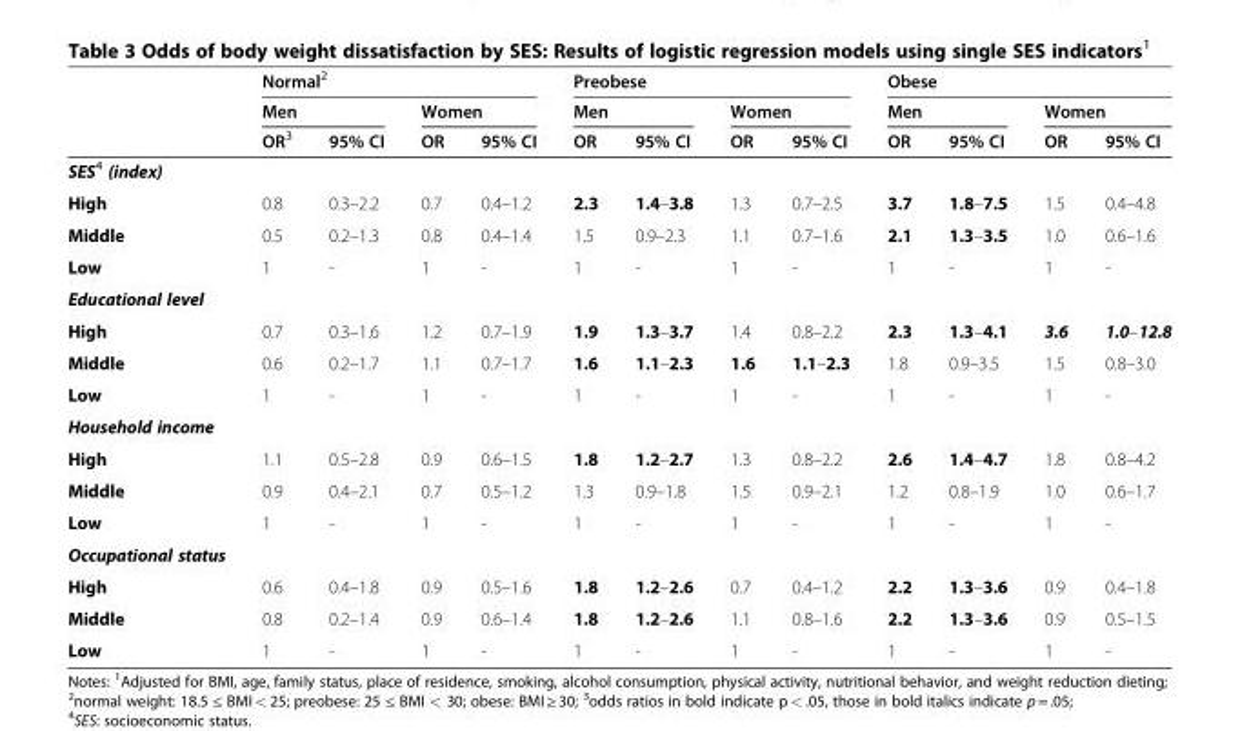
<table><thead><tr><td rowspan="3"></td><td colspan="4">Normal<sup>2</sup></td><td colspan="4">Preobese</td><td colspan="4">Obese</td></tr><tr><td colspan="2">Men</td><td colspan="2">Women</td><td colspan="2">Men</td><td colspan="2">Women</td><td colspan="2">Men</td><td colspan="2">Women</td></tr><tr><td>OR<sup>3</sup></td><td>95% CI</td><td>OR</td><td>95% CI</td><td>OR</td><td>95% CI</td><td>OR</td><td>95% CI</td><td>OR</td><td>95% CI</td><td>OR</td><td>95% CI</td></tr></thead><tbody><tr><td colspan="13">SES<sup>4</sup> (index)</td></tr><tr><td>High</td><td>0.8</td><td>0.3–2.2</td><td>0.7</td><td>0.4–1.2</td><td>2.3</td><td>1.4–3.8</td><td>1.3</td><td>0.7–2.5</td><td>3.7</td><td>1.8–7.5</td><td>1.5</td><td>0.4–4.8</td></tr><tr><td>Middle</td><td>0.5</td><td>0.2–1.3</td><td>0.8</td><td>0.4–1.4</td><td>1.5</td><td>0.9–2.3</td><td>1.1</td><td>0.7–1.6</td><td>2.1</td><td>1.3–3.5</td><td>1.0</td><td>0.6–1.6</td></tr><tr><td>Low</td><td>1</td><td>-</td><td>1</td><td>-</td><td>1</td><td>-</td><td>1</td><td>-</td><td>1</td><td>-</td><td>1</td><td>-</td></tr><tr><td colspan="13">Educational level</td></tr><tr><td>High</td><td>0.7</td><td>0.3–1.6</td><td>1.2</td><td>0.7–1.9</td><td>1.9</td><td>1.3–3.7</td><td>1.4</td><td>0.8–2.2</td><td>2.3</td><td>1.3–4.1</td><td>3.6</td><td>1.0–12.8</td></tr><tr><td>Middle</td><td>0.6</td><td>0.2–1.7</td><td>1.1</td><td>0.7–1.7</td><td>1.6</td><td>1.1–2.3</td><td>1.6</td><td>1.1–2.3</td><td>1.8</td><td>0.9–3.5</td><td>1.5</td><td>0.8–3.0</td></tr><tr><td>Low</td><td>1</td><td>-</td><td>1</td><td>-</td><td>1</td><td>-</td><td>1</td><td>-</td><td>1</td><td>-</td><td>1</td><td>-</td></tr><tr><td colspan="13">Household income</td></tr><tr><td>High</td><td>1.1</td><td>0.5–2.8</td><td>0.9</td><td>0.6–1.5</td><td>1.8</td><td>1.2–2.7</td><td>1.3</td><td>0.8–2.2</td><td>2.6</td><td>1.4–4.7</td><td>1.8</td><td>0.8–4.2</td></tr><tr><td>Middle</td><td>0.9</td><td>0.4–2.1</td><td>0.7</td><td>0.5–1.2</td><td>1.3</td><td>0.9–1.8</td><td>1.5</td><td>0.9–2.1</td><td>1.2</td><td>0.8–1.9</td><td>1.0</td><td>0.6–1.7</td></tr><tr><td>Low</td><td>1</td><td>-</td><td>1</td><td>-</td><td>1</td><td>-</td><td>1</td><td>-</td><td>1</td><td>-</td><td>1</td><td>-</td></tr><tr><td colspan="13">Occupational status</td></tr><tr><td>High</td><td>0.6</td><td>0.4–1.8</td><td>0.9</td><td>0.5–1.6</td><td>1.8</td><td>1.2–2.6</td><td>0.7</td><td>0.4–1.2</td><td>2.2</td><td>1.3–3.6</td><td>0.9</td><td>0.4–1.8</td></tr><tr><td>Middle</td><td>0.8</td><td>0.2–1.4</td><td>0.9</td><td>0.6–1.4</td><td>1.8</td><td>1.2–2.6</td><td>1.1</td><td>0.8–1.6</td><td>2.2</td><td>1.3–3.6</td><td>0.9</td><td>0.5–1.5</td></tr><tr><td>Low</td><td>1</td><td>-</td><td>1</td><td>-</td><td>1</td><td>-</td><td>1</td><td>-</td><td>1</td><td>-</td><td>1</td><td>-</td></tr></tbody></table>